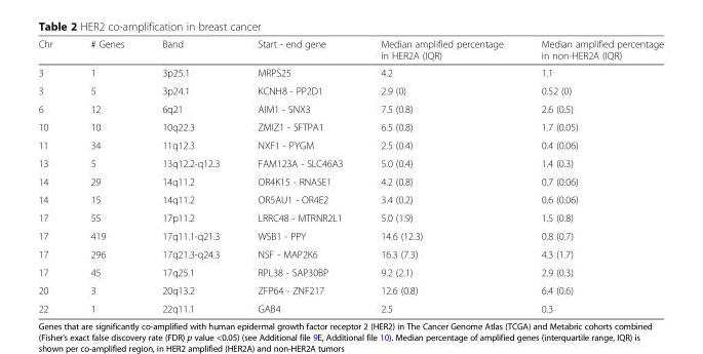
<table><thead><tr><td>Chr</td><td># Genes</td><td>Band</td><td>Start - end gene</td><td>Median amplified percentage in HER2A (IQR)</td><td>Median amplified percentage in non-HER2A (IQR)</td></tr></thead><tbody><tr><td>3</td><td>1</td><td>3p25.1</td><td>MRPS25</td><td>4.2</td><td>1.1</td></tr><tr><td>3</td><td>5</td><td>3p24.1</td><td>KCNH8 - PP2D1</td><td>2.9 (0)</td><td>0.52 (0)</td></tr><tr><td>6</td><td>12</td><td>6q21</td><td>AIM1 - SNX3</td><td>7.5 (0.8)</td><td>2.6 (0.5)</td></tr><tr><td>10</td><td>10</td><td>10q22.3</td><td>ZMIZ1 - SFTPA1</td><td>6.5 (0.8)</td><td>1.7 (0.05)</td></tr><tr><td>11</td><td>34</td><td>11q12.3</td><td>NXF1 - PYGM</td><td>2.5 (0.4)</td><td>0.4 (0.06)</td></tr><tr><td>13</td><td>5</td><td>13q12.2-q12.3</td><td>FAM123A - SLC46A3</td><td>5.0 (0.4)</td><td>1.4 (0.3)</td></tr><tr><td>14</td><td>29</td><td>14q11.2</td><td>OR4K15 - RNASE1</td><td>4.2 (0.8)</td><td>0.7 (0.06)</td></tr><tr><td>14</td><td>15</td><td>14q11.2</td><td>OR5AU1 - OR4E2</td><td>3.4 (0.2)</td><td>0.6 (0.06)</td></tr><tr><td>17</td><td>55</td><td>17p11.2</td><td>LRRC48 - MTRNR2L1</td><td>5.0 (1.9)</td><td>1.5 (0.8)</td></tr><tr><td>17</td><td>419</td><td>17q11.1-q21.3</td><td>WSB1 - PPY</td><td>14.6 (12.3)</td><td>0.8 (0.7)</td></tr><tr><td>17</td><td>296</td><td>17q21.3-q24.3</td><td>NSF - MAP2K6</td><td>16.3 (7.3)</td><td>4.3 (1.7)</td></tr><tr><td>17</td><td>45</td><td>17q25.1</td><td>RPL38 - SAP30BP</td><td>9.2 (2.1)</td><td>2.9 (0.3)</td></tr><tr><td>20</td><td>3</td><td>20q13.2</td><td>ZFP64 - ZNF217</td><td>12.6 (0.8)</td><td>6.4 (0.6)</td></tr><tr><td>22</td><td>1</td><td>22q11.1</td><td>GAB4</td><td>2.5</td><td>0.3</td></tr></tbody></table>